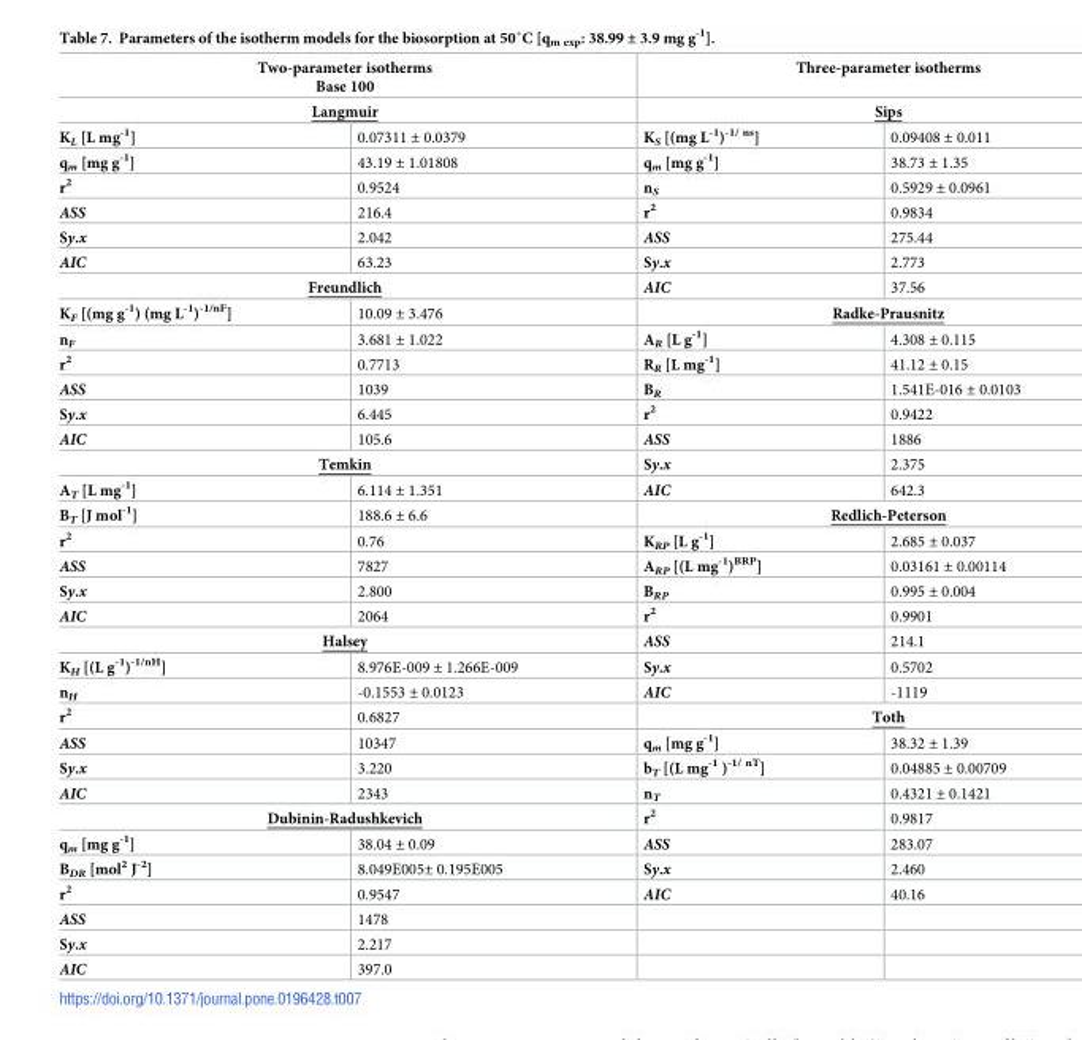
<table><thead><tr><td rowspan="2" colspan="2">Two-parameter isotherms Base 100 Langmuir</td><td rowspan="2" colspan="2">Three-parameter isotherms Sips</td></tr><tr></tr><tr><td>K<sub>L</sub> [L mg<sup>-1</sup>]</td><td>0.07311 ± 0.0379</td><td>K<sub>S</sub> [(mg L<sup>-1</sup>)<sup>-1/ ns</sup>]</td><td>0.09408 ± 0.011</td></tr></thead><tbody><tr><td>q<sub>m</sub> [mg g<sup>-1</sup>]</td><td>43.19 ± 1.01808</td><td>q<sub>m</sub> [mg g<sup>-1</sup>]</td><td>38.73 ± 1.35</td></tr><tr><td>r<sup>2</sup></td><td>0.9524</td><td>n<sub>S</sub></td><td>0.5929 ± 0.0961</td></tr><tr><td>ASS</td><td>216.4</td><td>r<sup>2</sup></td><td>0.9834</td></tr><tr><td>Sy.x</td><td>2.042</td><td>ASS</td><td>275.44</td></tr><tr><td>AIC</td><td>63.23</td><td>Sy.x</td><td>2.773</td></tr><tr><td colspan="2">Freundlich</td><td>AIC</td><td>37.56</td></tr><tr><td>K<sub>F</sub> [(mg g<sup>-1</sup>) (mg L<sup>-1</sup>)<sup>-1/nF</sup>]</td><td>10.09 ± 3.476</td><td colspan="2">Radke-Prausnitz</td></tr><tr><td>n<sub>F</sub></td><td>3.681 ± 1.022</td><td>A<sub>R</sub> [L g<sup>-1</sup>]</td><td>4.308 ± 0.115</td></tr><tr><td>r<sup>2</sup></td><td>0.7713</td><td>R<sub>R</sub> [L mg<sup>-1</sup>]</td><td>41.12 ± 0.15</td></tr><tr><td>ASS</td><td>1039</td><td>B<sub>R</sub></td><td>1.541E-016 ± 0.0103</td></tr><tr><td>Sy.x</td><td>6.445</td><td>r<sup>2</sup></td><td>0.9422</td></tr><tr><td>AIC</td><td>105.6</td><td>ASS</td><td>1886</td></tr><tr><td colspan="2">Temkin</td><td>Sy.x</td><td>2.375</td></tr><tr><td>A<sub>T</sub> [L mg<sup>-1</sup>]</td><td>6.114 ± 1.351</td><td>AIC</td><td>642.3</td></tr><tr><td>B<sub>T</sub> [J mol<sup>-1</sup>]</td><td>188.6 ± 6.6</td><td colspan="2">Redlich-Peterson</td></tr><tr><td>r<sup>2</sup></td><td>0.76</td><td>K<sub>RP</sub> [L g<sup>-1</sup>]</td><td>2.685 ± 0.037</td></tr><tr><td>ASS</td><td>7827</td><td>A<sub>RP</sub> [(L mg<sup>-1</sup>)<sup>BRP</sup>]</td><td>0.03161 ± 0.00114</td></tr><tr><td>Sy.x</td><td>2.800</td><td>B<sub>RP</sub></td><td>0.995 ± 0.004</td></tr><tr><td>AIC</td><td>2064</td><td>r<sup>2</sup></td><td>0.9901</td></tr><tr><td colspan="2">Halsey</td><td>ASS</td><td>214.1</td></tr><tr><td>K<sub>H</sub> [(L g<sup>-1</sup>)<sup>-1/nH</sup>]</td><td>8.976E-009 ± 1.266E-009</td><td>Sy.x</td><td>0.5702</td></tr><tr><td>n<sub>H</sub></td><td>-0.1553 ± 0.0123</td><td>AIC</td><td>-1119</td></tr><tr><td>r<sup>2</sup></td><td>0.6827</td><td colspan="2">Toth</td></tr><tr><td>ASS</td><td>10347</td><td>q<sub>m</sub> [mg g<sup>-1</sup>]</td><td>38.32 ± 1.39</td></tr><tr><td>Sy.x</td><td>3.220</td><td>b<sub>T</sub> [(L mg<sup>-1</sup> )<sup>-1/ nT</sup>]</td><td>0.04885 ± 0.00709</td></tr><tr><td>AIC</td><td>2343</td><td>n<sub>T</sub></td><td>0.4321 ± 0.1421</td></tr><tr><td colspan="2">Dubinin-Radushkevich</td><td>r<sup>2</sup></td><td>0.9817</td></tr><tr><td>q<sub>m</sub> [mg g<sup>-1</sup>]</td><td>38.04 ± 0.09</td><td>ASS</td><td>283.07</td></tr><tr><td>B<sub>DR</sub> [mol<sup>2</sup> J<sup>-2</sup>]</td><td>8.049E005± 0.195E005</td><td>Sy.x</td><td>2.460</td></tr><tr><td>r<sup>2</sup></td><td>0.9547</td><td>AIC</td><td>40.16</td></tr><tr><td>ASS</td><td>1478</td><td></td><td></td></tr><tr><td>Sy.x</td><td>2.217</td><td></td><td></td></tr><tr><td>AIC</td><td>397.0</td><td></td><td></td></tr></tbody></table>